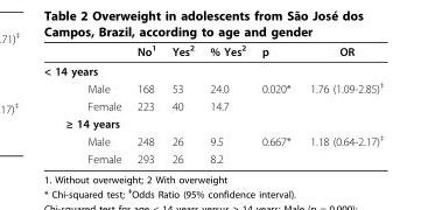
<table><thead><tr><td></td><td>No<sup>1</sup></td><td>Yes<sup>2</sup></td><td>% Yes<sup>2</sup></td><td>p</td><td>OR</td></tr></thead><tbody><tr><td colspan="6">&lt; 14 years</td></tr><tr><td>Male</td><td>168</td><td>53</td><td>24.0</td><td>0.020*</td><td>1.76 (1.09-2.85)<sup>‡</sup></td></tr><tr><td>Female</td><td>223</td><td>40</td><td>14.7</td><td></td><td></td></tr><tr><td colspan="6">≥ 14 years</td></tr><tr><td>Male</td><td>248</td><td>26</td><td>9.5</td><td>0.667*</td><td>1.18 (0.64-2.17)<sup>‡</sup></td></tr><tr><td>Female</td><td>293</td><td>26</td><td>8.2</td><td></td><td></td></tr></tbody></table>